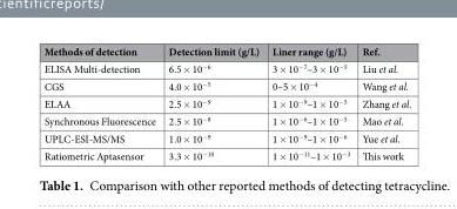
<table><thead><tr><td>Methods of detection</td><td>Detection limit (g/L)</td><td>Liner range (g/L)</td><td>Ref.</td></tr></thead><tbody><tr><td>ELISA Multi-detection</td><td>6.5 × 10<sup>−6</sup></td><td>3 × 10<sup>−7</sup>–3 × 10<sup>−5</sup></td><td>Liu et al.</td></tr><tr><td>CGS</td><td>4.0 × 10<sup>−5</sup></td><td>0–5 × 10<sup>−4</sup></td><td>Wang et al.</td></tr><tr><td>ELAA</td><td>2.5 × 10<sup>−9</sup></td><td>1 × 10<sup>−9</sup>–1 × 10<sup>−5</sup></td><td>Zhang et al.</td></tr><tr><td>Synchronous Fluorescence</td><td>2.5 × 10<sup>−8</sup></td><td>1 × 10<sup>−6</sup>–1 × 10<sup>−5</sup></td><td>Mao et al.</td></tr><tr><td>UPLC-ESI-MS/MS</td><td>1.0 × 10<sup>−9</sup></td><td>1 × 10<sup>−9</sup>–1 × 10<sup>−6</sup></td><td>Yue et al.</td></tr><tr><td>Ratiometric Aptasensor</td><td>3.3 × 10<sup>−10</sup></td><td>1 × 10<sup>−11</sup>–1 × 10<sup>−3</sup></td><td>This work</td></tr></tbody></table>